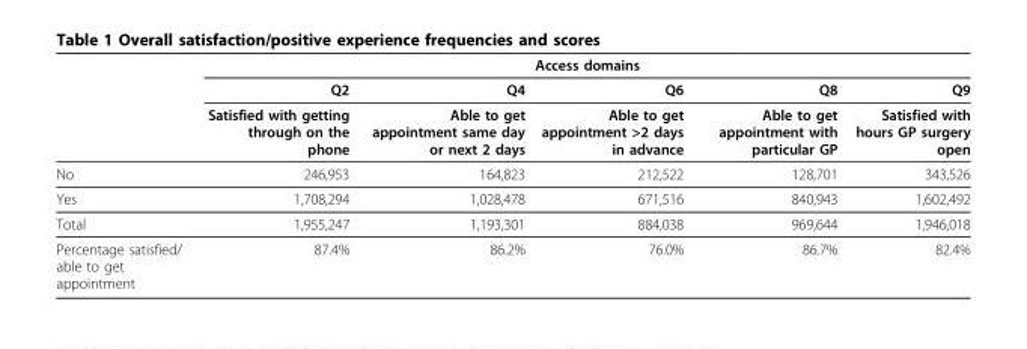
<table><thead><tr><td rowspan="3"></td><td colspan="5">Access domains</td></tr><tr><td rowspan="2">Q2 Satisfied with getting through on the phone</td><td rowspan="2">Q4 Able to get appointment same day or next 2 days</td><td rowspan="2">Q6 Able to get appointment &gt;2 days in advance</td><td rowspan="2">Q8 Able to get appointment with particular GP</td><td rowspan="2">Q9 Satisfied with hours GP surgery open</td></tr><tr></tr></thead><tbody><tr><td>No</td><td>246,953</td><td>164,823</td><td>212,522</td><td>128,701</td><td>343,526</td></tr><tr><td>Yes</td><td>1,708,294</td><td>1,028,478</td><td>671,516</td><td>840,943</td><td>1,602,492</td></tr><tr><td>Total</td><td>1,955,247</td><td>1,193,301</td><td>884,038</td><td>969,644</td><td>1,946,018</td></tr><tr><td>Percentage satisfied/ able to get appointment</td><td>87.4%</td><td>86.2%</td><td>76.0%</td><td>86.7%</td><td>82.4%</td></tr></tbody></table>